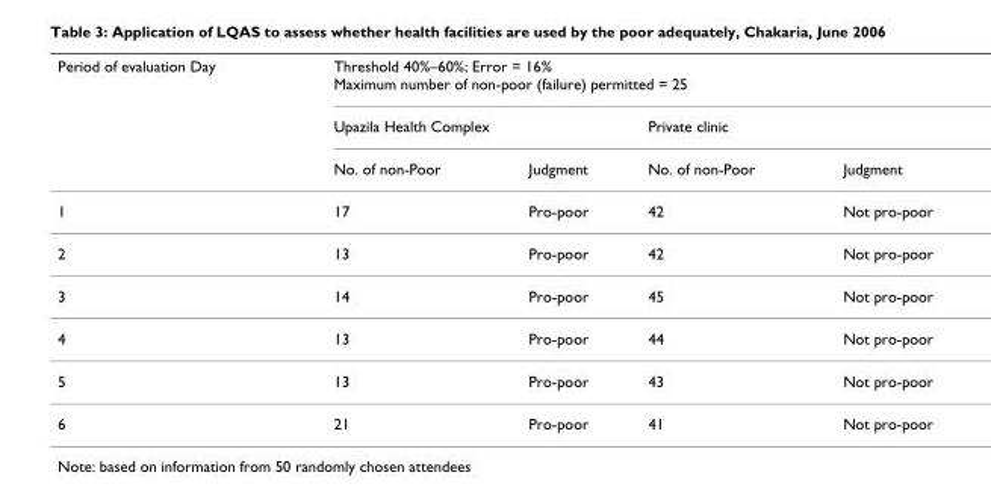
<table><thead><tr><td rowspan="3">Period of evaluation Day</td><td colspan="4">Threshold 40%–60%; Error = 16% Maximum number of non-poor (failure) permitted = 25</td></tr><tr><td colspan="2">Upazila Health Complex</td><td colspan="2">Private clinic</td></tr><tr><td>No. of non-Poor</td><td>Judgment</td><td>No. of non-Poor</td><td>Judgment</td></tr></thead><tbody><tr><td>1</td><td>17</td><td>Pro-poor</td><td>42</td><td>Not pro-poor</td></tr><tr><td>2</td><td>13</td><td>Pro-poor</td><td>42</td><td>Not pro-poor</td></tr><tr><td>3</td><td>14</td><td>Pro-poor</td><td>45</td><td>Not pro-poor</td></tr><tr><td>4</td><td>13</td><td>Pro-poor</td><td>44</td><td>Not pro-poor</td></tr><tr><td>5</td><td>13</td><td>Pro-poor</td><td>43</td><td>Not pro-poor</td></tr><tr><td>6</td><td>21</td><td>Pro-poor</td><td>41</td><td>Not pro-poor</td></tr></tbody></table>